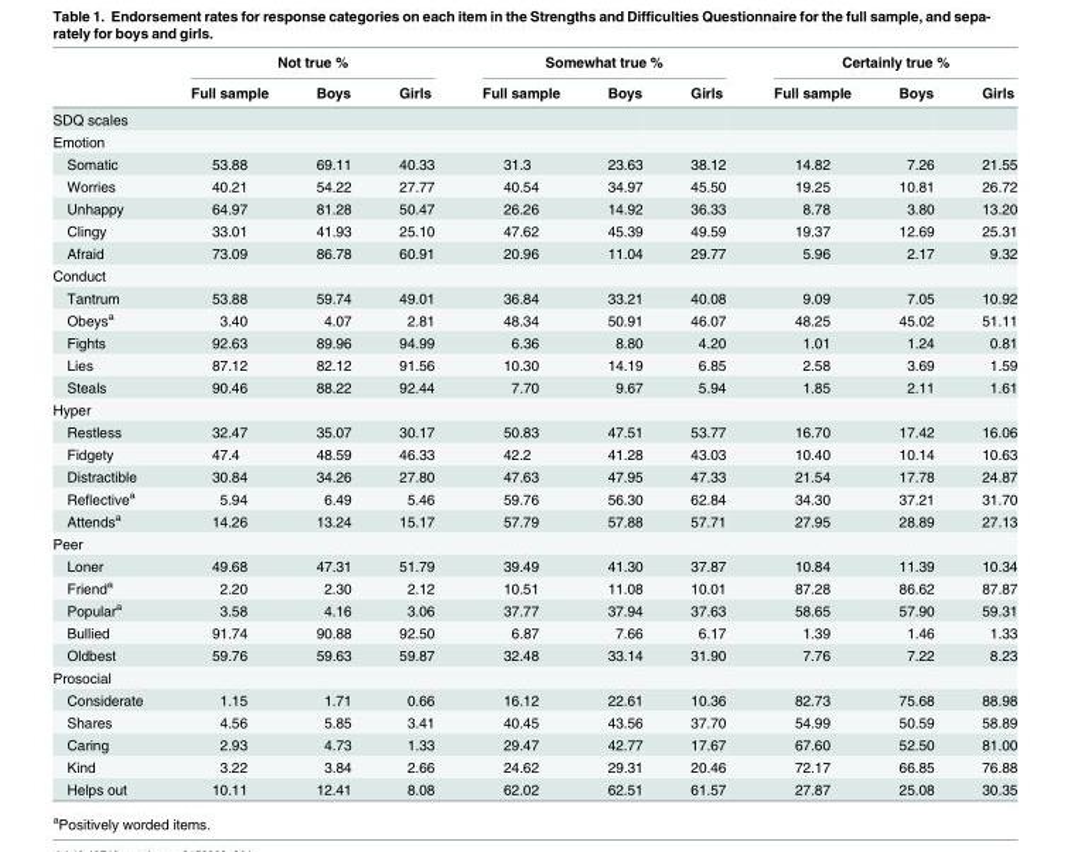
<table><thead><tr><td rowspan="2"></td><td colspan="3">Not true %</td><td colspan="3">Somewhat true %</td><td colspan="3">Certainly true %</td></tr><tr><td>Full sample</td><td>Boys</td><td>Girls</td><td>Full sample</td><td>Boys</td><td>Girls</td><td>Full sample</td><td>Boys</td><td>Girls</td></tr></thead><tbody><tr><td colspan="10">SDQ scales</td></tr><tr><td colspan="10">Emotion</td></tr><tr><td>Somatic</td><td>53.88</td><td>69.11</td><td>40.33</td><td>31.3</td><td>23.63</td><td>38.12</td><td>14.82</td><td>7.26</td><td>21.55</td></tr><tr><td>Worries</td><td>40.21</td><td>54.22</td><td>27.77</td><td>40.54</td><td>34.97</td><td>45.50</td><td>19.25</td><td>10.81</td><td>26.72</td></tr><tr><td>Unhappy</td><td>64.97</td><td>81.28</td><td>50.47</td><td>26.26</td><td>14.92</td><td>36.33</td><td>8.78</td><td>3.80</td><td>13.20</td></tr><tr><td>Clingy</td><td>33.01</td><td>41.93</td><td>25.10</td><td>47.62</td><td>45.39</td><td>49.59</td><td>19.37</td><td>12.69</td><td>25.31</td></tr><tr><td>Afraid</td><td>73.09</td><td>86.78</td><td>60.91</td><td>20.96</td><td>11.04</td><td>29.77</td><td>5.96</td><td>2.17</td><td>9.32</td></tr><tr><td colspan="10">Conduct</td></tr><tr><td>Tantrum</td><td>53.88</td><td>59.74</td><td>49.01</td><td>36.84</td><td>33.21</td><td>40.08</td><td>9.09</td><td>7.05</td><td>10.92</td></tr><tr><td>Obeys<sup>a</sup></td><td>3.40</td><td>4.07</td><td>2.81</td><td>48.34</td><td>50.91</td><td>46.07</td><td>48.25</td><td>45.02</td><td>51.11</td></tr><tr><td>Fights</td><td>92.63</td><td>89.96</td><td>94.99</td><td>6.36</td><td>8.80</td><td>4.20</td><td>1.01</td><td>1.24</td><td>0.81</td></tr><tr><td>Lies</td><td>87.12</td><td>82.12</td><td>91.56</td><td>10.30</td><td>14.19</td><td>6.85</td><td>2.58</td><td>3.69</td><td>1.59</td></tr><tr><td>Steals</td><td>90.46</td><td>88.22</td><td>92.44</td><td>7.70</td><td>9.67</td><td>5.94</td><td>1.85</td><td>2.11</td><td>1.61</td></tr><tr><td colspan="10">Hyper</td></tr><tr><td>Restless</td><td>32.47</td><td>35.07</td><td>30.17</td><td>50.83</td><td>47.51</td><td>53.77</td><td>16.70</td><td>17.42</td><td>16.06</td></tr><tr><td>Fidgety</td><td>47.4</td><td>48.59</td><td>46.33</td><td>42.2</td><td>41.28</td><td>43.03</td><td>10.40</td><td>10.14</td><td>10.63</td></tr><tr><td>Distractible</td><td>30.84</td><td>34.26</td><td>27.80</td><td>47.63</td><td>47.95</td><td>47.33</td><td>21.54</td><td>17.78</td><td>24.87</td></tr><tr><td>Reflective<sup>a</sup></td><td>5.94</td><td>6.49</td><td>5.46</td><td>59.76</td><td>56.30</td><td>62.84</td><td>34.30</td><td>37.21</td><td>31.70</td></tr><tr><td>Attends<sup>a</sup></td><td>14.26</td><td>13.24</td><td>15.17</td><td>57.79</td><td>57.88</td><td>57.71</td><td>27.95</td><td>28.89</td><td>27.13</td></tr><tr><td colspan="10">Peer</td></tr><tr><td>Loner</td><td>49.68</td><td>47.31</td><td>51.79</td><td>39.49</td><td>41.30</td><td>37.87</td><td>10.84</td><td>11.39</td><td>10.34</td></tr><tr><td>Friend<sup>a</sup></td><td>2.20</td><td>2.30</td><td>2.12</td><td>10.51</td><td>11.08</td><td>10.01</td><td>87.28</td><td>86.62</td><td>87.87</td></tr><tr><td>Popular<sup>a</sup></td><td>3.58</td><td>4.16</td><td>3.06</td><td>37.77</td><td>37.94</td><td>37.63</td><td>58.65</td><td>57.90</td><td>59.31</td></tr><tr><td>Bullied</td><td>91.74</td><td>90.88</td><td>92.50</td><td>6.87</td><td>7.66</td><td>6.17</td><td>1.39</td><td>1.46</td><td>1.33</td></tr><tr><td>Oldbest</td><td>59.76</td><td>59.63</td><td>59.87</td><td>32.48</td><td>33.14</td><td>31.90</td><td>7.76</td><td>7.22</td><td>8.23</td></tr><tr><td colspan="10">Prosocial</td></tr><tr><td>Considerate</td><td>1.15</td><td>1.71</td><td>0.66</td><td>16.12</td><td>22.61</td><td>10.36</td><td>82.73</td><td>75.68</td><td>88.98</td></tr><tr><td>Shares</td><td>4.56</td><td>5.85</td><td>3.41</td><td>40.45</td><td>43.56</td><td>37.70</td><td>54.99</td><td>50.59</td><td>58.89</td></tr><tr><td>Caring</td><td>2.93</td><td>4.73</td><td>1.33</td><td>29.47</td><td>42.77</td><td>17.67</td><td>67.60</td><td>52.50</td><td>81.00</td></tr><tr><td>Kind</td><td>3.22</td><td>3.84</td><td>2.66</td><td>24.62</td><td>29.31</td><td>20.46</td><td>72.17</td><td>66.85</td><td>76.88</td></tr><tr><td>Helps out</td><td>10.11</td><td>12.41</td><td>8.08</td><td>62.02</td><td>62.51</td><td>61.57</td><td>27.87</td><td>25.08</td><td>30.35</td></tr></tbody></table>